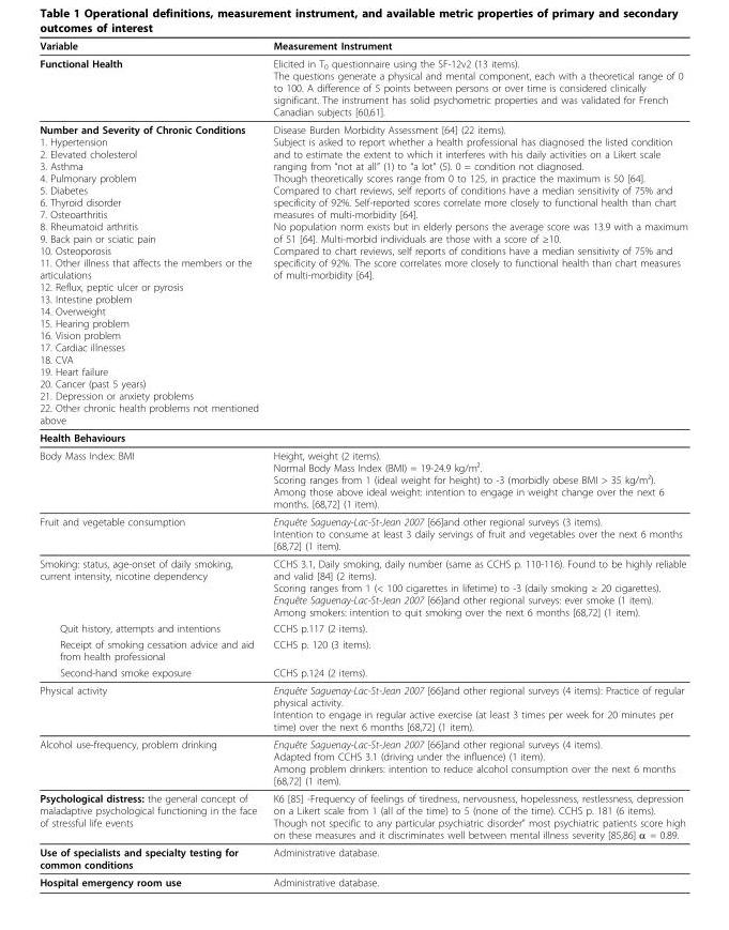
<table><thead><tr><td>Variable</td><td>Measurement Instrument</td></tr></thead><tbody><tr><td>Functional Health</td><td>Elicited in T0 questionnaire using the SF-12v2 (13 items). The questions generate a physical and mental component, each with a theoretical range of 0 to 100. A difference of 5 points between persons or over time is considered clinically significant. The instrument has solid psychometric properties and was validated for French Canadian subjects [60,61].</td></tr><tr><td>Number and Severity of Chronic Conditions 1. Hypertension 2. Elevated cholesterol 3. Asthma 4. Pulmonary problem 5. Diabetes 6. Thyroid disorder 7. Osteoarthritis 8. Rheumatoid arthritis 9. Back pain or sciatic pain 10. Osteoporosis 11. Other illness that affects the members or the articulations 12. Reflux, peptic ulcer or pyrosis 13. Intestine problem 14. Overweight 15. Hearing problem 16. Vision problem 17. Cardiac illnesses 18. CVA 19. Heart failure 20. Cancer (past 5 years) 21. Depression or anxiety problems 22. Other chronic health problems not mentioned above</td><td>Disease Burden Morbidity Assessment [64] (22 items). Subject is asked to report whether a health professional has diagnosed the listed condition and to estimate the extent to which it interferes with his daily activities on a Likert scale ranging from “not at all” (1) to “a lot” (5). 0 = condition not diagnosed. Though theoretically scores range from 0 to 125, in practice the maximum is 50 [64]. Compared to chart reviews, self reports of conditions have a median sensitivity of 75% and specificity of 92%. Self-reported scores correlate more closely to functional health than chart measures of multi-morbidity [64]. No population norm exists but in elderly persons the average score was 13.9 with a maximum of 51 [64]. Multi-morbid individuals are those with a score of ≥10. Compared to chart reviews, self reports of conditions have a median sensitivity of 75% and specificity of 92%. The score correlates more closely to functional health than chart measures of multi-morbidity [64].</td></tr><tr><td colspan="2">Health Behaviours</td></tr><tr><td>Body Mass Index: BMI</td><td>Height, weight (2 items). Normal Body Mass Index (BMI) = 19-24.9 kg/m². Scoring ranges from 1 (ideal weight for height) to -3 (morbidly obese BMI &gt; 35 kg/m²). Among those above ideal weight: intention to engage in weight change over the next 6 months. [68,72] (1 item).</td></tr><tr><td>Fruit and vegetable consumption</td><td>Enquête Saguenay-Lac-St-Jean 2007 [66]and other regional surveys (3 items). Intention to consume at least 3 daily servings of fruit and vegetables over the next 6 months [68,72] (1 item).</td></tr><tr><td>Smoking: status, age-onset of daily smoking, current intensity, nicotine dependency</td><td>CCHS 3.1, Daily smoking, daily number (same as CCHS p. 110-116). Found to be highly reliable and valid [84] (2 items). Scoring ranges from 1 (&lt; 100 cigarettes in lifetime) to -3 (daily smoking ≥ 20 cigarettes). Enquête Saguenay-Lac-St-Jean 2007 [66]and other regional surveys: ever smoke (1 item). Among smokers: intention to quit smoking over the next 6 months [68,72] (1 item).</td></tr><tr><td>Quit history, attempts and intentions</td><td>CCHS p.117 (2 items).</td></tr><tr><td>Receipt of smoking cessation advice and aid from health professional</td><td>CCHS p. 120 (3 items).</td></tr><tr><td>Second-hand smoke exposure</td><td>CCHS p.124 (2 items).</td></tr><tr><td>Physical activity</td><td>Enquête Saguenay-Lac-St-Jean 2007 [66]and other regional surveys (4 items): Practice of regular physical activity. Intention to engage in regular active exercise (at least 3 times per week for 20 minutes per time) over the next 6 months [68,72] (1 item).</td></tr><tr><td>Alcohol use-frequency, problem drinking</td><td>Enquête Saguenay-Lac-St-Jean 2007 [66]and other regional surveys (4 items). Adapted from CCHS 3.1 (driving under the influence) (1 item). Among problem drinkers: intention to reduce alcohol consumption over the next 6 months [68,72] (1 item).</td></tr><tr><td>Psychological distress: the general concept of maladaptive psychological functioning in the face of stressful life events</td><td>K6 [85] -Frequency of feelings of tiredness, nervousness, hopelessness, restlessness, depression on a Likert scale from 1 (all of the time) to 5 (none of the time). CCHS p. 181 (6 items). Though not specific to any particular psychiatric disorder” most psychiatric patients score high on these measures and it discriminates well between mental illness severity [85,86] α = 0.89.</td></tr><tr><td>Use of specialists and specialty testing for common conditions</td><td>Administrative database.</td></tr><tr><td>Hospital emergency room use</td><td>Administrative database.</td></tr></tbody></table>